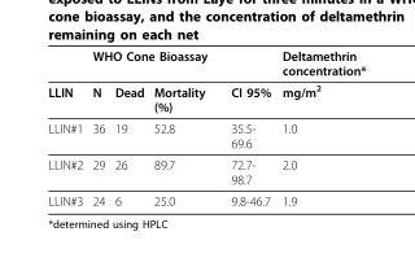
<table><thead><tr><td rowspan="2">LLIN</td><td colspan="4">WHO Cone Bioassay</td><td rowspan="2">Deltamethrin concentration* mg/m<sup>2</sup></td></tr><tr><td>N</td><td>Dead</td><td>Mortality (%)</td><td>CI 95%</td></tr></thead><tbody><tr><td>LLIN#1</td><td>36</td><td>19</td><td>52.8</td><td>35.5- 69.6</td><td>1.0</td></tr><tr><td>LLIN#2</td><td>29</td><td>26</td><td>89.7</td><td>72.7- 98.7</td><td>2.0</td></tr><tr><td>LLIN#3</td><td>24</td><td>6</td><td>25.0</td><td>9.8-46.7</td><td>1.9</td></tr></tbody></table>